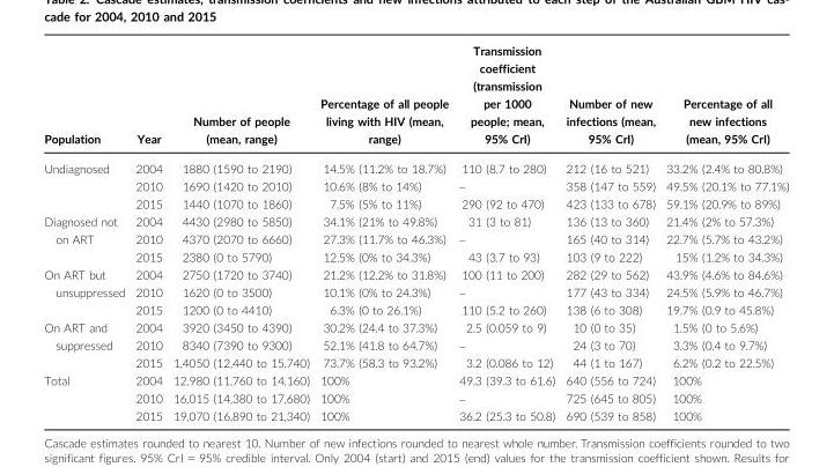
<table><thead><tr><td>Population</td><td>Year</td><td>Number of people (mean, range)</td><td>Percentage of all people living with HIV (mean, range)</td><td>Transmission coefficient (transmission per 1000 people; mean, 95% CrI)</td><td>Number of new infections (mean, 95% CrI)</td><td>Percentage of all new infections (mean, 95% CrI)</td></tr></thead><tbody><tr><td rowspan="3">Undiagnosed</td><td>2004</td><td>1880 (1590 to 2190)</td><td>14.5% (11.2% to 18.7%)</td><td>110 (8.7 to 280)</td><td>212 (16 to 521)</td><td>33.2% (2.4% to 80.8%)</td></tr><tr><td>2010</td><td>1690 (1420 to 2010)</td><td>10.6% (8% to 14%)</td><td>–</td><td>358 (147 to 559)</td><td>49.5% (20.1% to 77.1%)</td></tr><tr><td>2015</td><td>1440 (1070 to 1860)</td><td>7.5% (5% to 11%)</td><td>290 (92 to 470)</td><td>423 (133 to 678)</td><td>59.1% (20.9% to 89%)</td></tr><tr><td rowspan="3">Diagnosed not on ART</td><td>2004</td><td>4430 (2980 to 5850)</td><td>34.1% (21% to 49.8%)</td><td>31 (3 to 81)</td><td>136 (13 to 360)</td><td>21.4% (2% to 57.3%)</td></tr><tr><td>2010</td><td>4370 (2070 to 6660)</td><td>27.3% (11.7% to 46.3%)</td><td>–</td><td>165 (40 to 314)</td><td>22.7% (5.7% to 43.2%)</td></tr><tr><td>2015</td><td>2380 (0 to 5790)</td><td>12.5% (0% to 34.3%)</td><td>43 (3.7 to 93)</td><td>103 (9 to 222)</td><td>15% (1.2% to 34.3%)</td></tr><tr><td rowspan="3">On ART but unsuppressed</td><td>2004</td><td>2750 (1720 to 3740)</td><td>21.2% (12.2% to 31.8%)</td><td>100 (11 to 200)</td><td>282 (29 to 562)</td><td>43.9% (4.6% to 84.6%)</td></tr><tr><td>2010</td><td>1620 (0 to 3500)</td><td>10.1% (0% to 24.3%)</td><td>–</td><td>177 (43 to 334)</td><td>24.5% (5.9% to 46.7%)</td></tr><tr><td>2015</td><td>1200 (0 to 4410)</td><td>6.3% (0 to 26.1%)</td><td>110 (5.2 to 260)</td><td>138 (6 to 308)</td><td>19.7% (0.9 to 45.8%)</td></tr><tr><td rowspan="3">On ART and suppressed</td><td>2004</td><td>3920 (3450 to 4390)</td><td>30.2% (24.4 to 37.3%)</td><td>2.5 (0.059 to 9)</td><td>10 (0 to 35)</td><td>1.5% (0 to 5.6%)</td></tr><tr><td>2010</td><td>8340 (7390 to 9300)</td><td>52.1% (41.8 to 64.7%)</td><td>–</td><td>24 (3 to 70)</td><td>3.3% (0.4 to 9.7%)</td></tr><tr><td>2015</td><td>1,4050 (12,440 to 15,740)</td><td>73.7% (58.3 to 93.2%)</td><td>3.2 (0.086 to 12)</td><td>44 (1 to 167)</td><td>6.2% (0.2 to 22.5%)</td></tr><tr><td rowspan="3">Total</td><td>2004</td><td>12,980 (11,760 to 14,160)</td><td>100%</td><td>49.3 (39.3 to 61.6)</td><td>640 (556 to 724)</td><td>100%</td></tr><tr><td>2010</td><td>16,015 (14,380 to 17,680)</td><td>100%</td><td>–</td><td>725 (645 to 805)</td><td>100%</td></tr><tr><td>2015</td><td>19,070 (16,890 to 21,340)</td><td>100%</td><td>36.2 (25.3 to 50.8)</td><td>690 (539 to 858)</td><td>100%</td></tr></tbody></table>